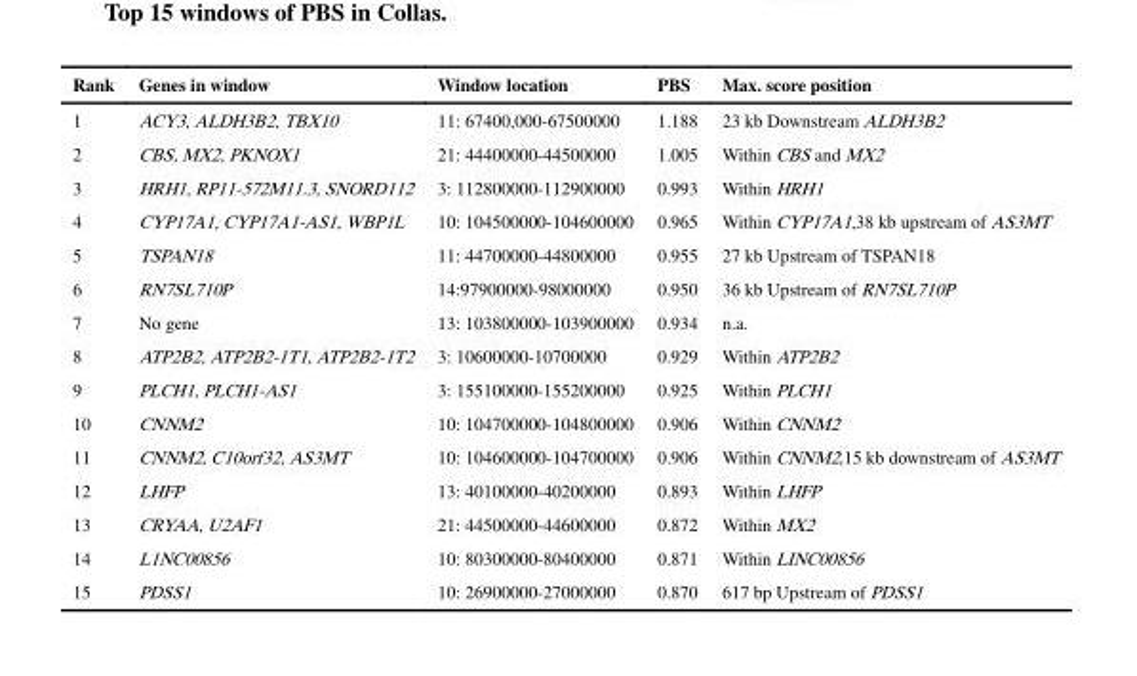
<table><thead><tr><td>Rank</td><td>Genes in window</td><td>Window location</td><td>PBS</td><td>Max. score position</td></tr></thead><tbody><tr><td>1</td><td>ACY3, ALDH3B2, TBX10</td><td>11: 67400,000-67500000</td><td>1.188</td><td>23 kb Downstream ALDH3B2</td></tr><tr><td>2</td><td>CBS, MX2, PKNOX1</td><td>21: 44400000-44500000</td><td>1.005</td><td>Within CBS and MX2</td></tr><tr><td>3</td><td>HRH1, RP11-572M11.3, SNORD112</td><td>3: 112800000-112900000</td><td>0.993</td><td>Within HRH1</td></tr><tr><td>4</td><td>CYP17A1, CYP17A1-AS1, WBP1L</td><td>10: 104500000-104600000</td><td>0.965</td><td>Within CYP17A1,38 kb upstream of AS3MT</td></tr><tr><td>5</td><td>TSPAN18</td><td>11: 44700000-44800000</td><td>0.955</td><td>27 kb Upstream of TSPAN18</td></tr><tr><td>6</td><td>RN7SL710P</td><td>14:97900000-98000000</td><td>0.950</td><td>36 kb Upstream of RN7SL710P</td></tr><tr><td>7</td><td>No gene</td><td>13: 103800000-103900000</td><td>0.934</td><td>n.a.</td></tr><tr><td>8</td><td>ATP2B2, ATP2B2-1T1, ATP2B2-1T2</td><td>3: 10600000-10700000</td><td>0.929</td><td>Within ATP2B2</td></tr><tr><td>9</td><td>PLCH1, PLCH1-AS1</td><td>3: 155100000-155200000</td><td>0.925</td><td>Within PLCH1</td></tr><tr><td>10</td><td>CNNM2</td><td>10: 104700000-104800000</td><td>0.906</td><td>Within CNNM2</td></tr><tr><td>11</td><td>CNNM2, C10orf32, AS3MT</td><td>10: 104600000-104700000</td><td>0.906</td><td>Within CNNM2,15 kb downstream of AS3MT</td></tr><tr><td>12</td><td>LHFP</td><td>13: 40100000-40200000</td><td>0.893</td><td>Within LHFP</td></tr><tr><td>13</td><td>CRYAA, U2AF1</td><td>21: 44500000-44600000</td><td>0.872</td><td>Within MX2</td></tr><tr><td>14</td><td>L1NC00856</td><td>10: 80300000-80400000</td><td>0.871</td><td>Within LINC00856</td></tr><tr><td>15</td><td>PDSS1</td><td>10: 26900000-27000000</td><td>0.870</td><td>617 bp Upstream of PDSS1</td></tr></tbody></table>